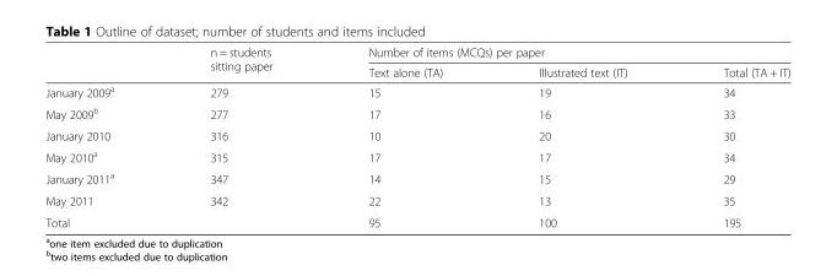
<table><thead><tr><td rowspan="2"></td><td rowspan="2">n = students sitting paper</td><td colspan="3">Number of items (MCQs) per paper</td></tr><tr><td>Text alone (TA)</td><td>Illustrated text (IT)</td><td>Total (TA + IT)</td></tr></thead><tbody><tr><td>January 2009<sup>a</sup></td><td>279</td><td>15</td><td>19</td><td>34</td></tr><tr><td>May 2009<sup>b</sup></td><td>277</td><td>17</td><td>16</td><td>33</td></tr><tr><td>January 2010</td><td>316</td><td>10</td><td>20</td><td>30</td></tr><tr><td>May 2010<sup>a</sup></td><td>315</td><td>17</td><td>17</td><td>34</td></tr><tr><td>January 2011<sup>a</sup></td><td>347</td><td>14</td><td>15</td><td>29</td></tr><tr><td>May 2011</td><td>342</td><td>22</td><td>13</td><td>35</td></tr><tr><td>Total</td><td></td><td>95</td><td>100</td><td>195</td></tr></tbody></table>